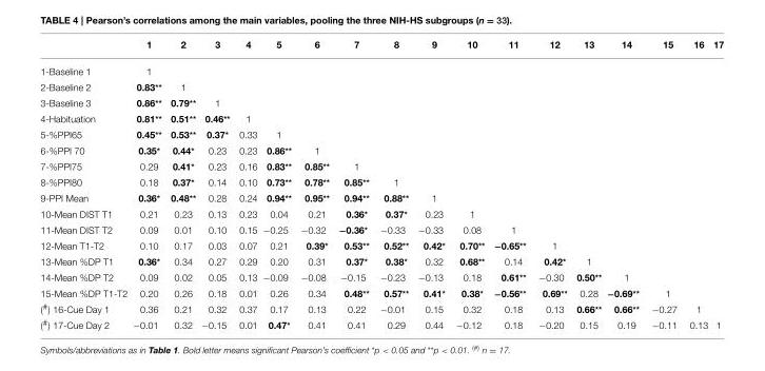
<table><thead><tr><td></td><td>1</td><td>2</td><td>3</td><td>4</td><td>5</td><td>6</td><td>7</td><td>8</td><td>9</td><td>10</td><td>11</td><td>12</td><td>13</td><td>14</td><td>15</td><td>16</td><td>17</td></tr></thead><tbody><tr><td>1-Baseline 1</td><td>1</td><td></td><td></td><td></td><td></td><td></td><td></td><td></td><td></td><td></td><td></td><td></td><td></td><td></td><td></td><td></td><td></td></tr><tr><td>2-Baseline 2</td><td>0.83**</td><td>1</td><td></td><td></td><td></td><td></td><td></td><td></td><td></td><td></td><td></td><td></td><td></td><td></td><td></td><td></td><td></td></tr><tr><td>3-Baseline 3</td><td>0.86**</td><td>0.79**</td><td>1</td><td></td><td></td><td></td><td></td><td></td><td></td><td></td><td></td><td></td><td></td><td></td><td></td><td></td><td></td></tr><tr><td>4-Habituation</td><td>0.81**</td><td>0.51**</td><td>0.46**</td><td>1</td><td></td><td></td><td></td><td></td><td></td><td></td><td></td><td></td><td></td><td></td><td></td><td></td><td></td></tr><tr><td>5-%PPI65</td><td>0.45**</td><td>0.53**</td><td>0.37*</td><td>0.33</td><td>1</td><td></td><td></td><td></td><td></td><td></td><td></td><td></td><td></td><td></td><td></td><td></td><td></td></tr><tr><td>6-%PPI 70</td><td>0.35*</td><td>0.44*</td><td>0.23</td><td>0.23</td><td>0.86**</td><td>1</td><td></td><td></td><td></td><td></td><td></td><td></td><td></td><td></td><td></td><td></td><td></td></tr><tr><td>7-%PPI75</td><td>0.29</td><td>0.41*</td><td>0.23</td><td>0.16</td><td>0.83**</td><td>0.85**</td><td>1</td><td></td><td></td><td></td><td></td><td></td><td></td><td></td><td></td><td></td><td></td></tr><tr><td>8-%PPI80</td><td>0.18</td><td>0.37*</td><td>0.14</td><td>0.10</td><td>0.73**</td><td>0.78**</td><td>0.85**</td><td>1</td><td></td><td></td><td></td><td></td><td></td><td></td><td></td><td></td><td></td></tr><tr><td>9-PPI Mean</td><td>0.36*</td><td>0.48**</td><td>0.28</td><td>0.24</td><td>0.94**</td><td>0.95**</td><td>0.94**</td><td>0.88**</td><td>1</td><td></td><td></td><td></td><td></td><td></td><td></td><td></td><td></td></tr><tr><td>10-Mean DIST T1</td><td>0.21</td><td>0.23</td><td>0.13</td><td>0.23</td><td>0.04</td><td>0.21</td><td>0.36*</td><td>0.37*</td><td>0.23</td><td>1</td><td></td><td></td><td></td><td></td><td></td><td></td><td></td></tr><tr><td>11-Mean DIST T2</td><td>0.09</td><td>0.01</td><td>0.10</td><td>0.15</td><td>−0.25</td><td>−0.32</td><td>−0.36*</td><td>−0.33</td><td>−0.33</td><td>0.08</td><td>1</td><td></td><td></td><td></td><td></td><td></td><td></td></tr><tr><td>12-Mean T1-T2</td><td>0.10</td><td>0.17</td><td>0.03</td><td>0.07</td><td>0.21</td><td>0.39*</td><td>0.53**</td><td>0.52**</td><td>0.42*</td><td>0.70**</td><td>−0.65**</td><td>1</td><td></td><td></td><td></td><td></td><td></td></tr><tr><td>13-Mean %DP T1</td><td>0.36*</td><td>0.34</td><td>0.27</td><td>0.29</td><td>0.20</td><td>0.31</td><td>0.37*</td><td>0.38*</td><td>0.32</td><td>0.68**</td><td>0.14</td><td>0.42*</td><td>1</td><td></td><td></td><td></td><td></td></tr><tr><td>14-Mean %DP T2</td><td>0.09</td><td>0.02</td><td>0.05</td><td>0.13</td><td>−0.09</td><td>−0.08</td><td>−0.15</td><td>−0.23</td><td>−0.13</td><td>0.18</td><td>0.61**</td><td>−0.30</td><td>0.50**</td><td>1</td><td></td><td></td><td></td></tr><tr><td>15-Mean %DP T1-T2</td><td>0.20</td><td>0.26</td><td>0.18</td><td>0.01</td><td>0.26</td><td>0.34</td><td>0.48**</td><td>0.57**</td><td>0.41*</td><td>0.38*</td><td>−0.56**</td><td>0.69**</td><td>0.28</td><td>−0.69**</td><td>1</td><td></td><td></td></tr><tr><td>(<sup>#</sup>) 16-Cue Day 1</td><td>0.36</td><td>0.21</td><td>0.32</td><td>0.37</td><td>0.17</td><td>0.13</td><td>0.22</td><td>−0.01</td><td>0.15</td><td>0.32</td><td>0.18</td><td>0.13</td><td>0.66**</td><td>0.66**</td><td>−0.27</td><td>1</td><td></td></tr><tr><td>(<sup>#</sup>) 17-Cue Day 2</td><td>−0.01</td><td>0.32</td><td>−0.15</td><td>0.01</td><td>0.47*</td><td>0.41</td><td>0.41</td><td>0.29</td><td>0.44</td><td>−0.12</td><td>0.18</td><td>−0.20</td><td>0.15</td><td>0.19</td><td>−0.11</td><td>0.13</td><td>1</td></tr></tbody></table>